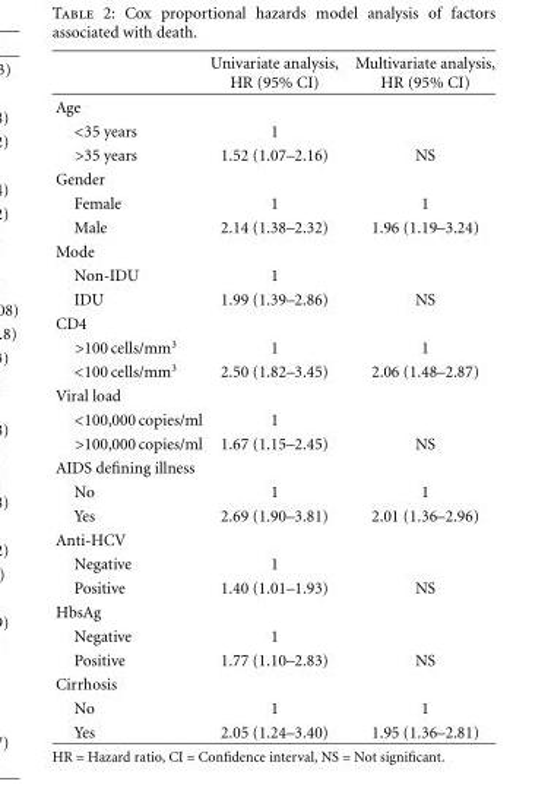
<table><thead><tr><td></td><td>Univariate analysis, HR (95% CI)</td><td>Multivariate analysis, HR (95% CI)</td></tr></thead><tbody><tr><td colspan="3">Age</td></tr><tr><td>&lt;35 years</td><td>1</td><td></td></tr><tr><td>&gt;35 years</td><td>1.52 (1.07–2.16)</td><td>NS</td></tr><tr><td colspan="3">Gender</td></tr><tr><td>Female</td><td>1</td><td>1</td></tr><tr><td>Male</td><td>2.14 (1.38–2.32)</td><td>1.96 (1.19–3.24)</td></tr><tr><td colspan="3">Mode</td></tr><tr><td>Non-IDU</td><td>1</td><td></td></tr><tr><td>IDU</td><td>1.99 (1.39–2.86)</td><td>NS</td></tr><tr><td colspan="3">CD4</td></tr><tr><td>&gt;100 cells/mm<sup>3</sup></td><td>1</td><td>1</td></tr><tr><td>&lt;100 cells/mm<sup>3</sup></td><td>2.50 (1.82–3.45)</td><td>2.06 (1.48–2.87)</td></tr><tr><td colspan="3">Viral load</td></tr><tr><td>&lt;100,000 copies/ml</td><td>1</td><td></td></tr><tr><td>&gt;100,000 copies/ml</td><td>1.67 (1.15–2.45)</td><td>NS</td></tr><tr><td colspan="3">AIDS defining illness</td></tr><tr><td>No</td><td>1</td><td>1</td></tr><tr><td>Yes</td><td>2.69 (1.90–3.81)</td><td>2.01 (1.36–2.96)</td></tr><tr><td colspan="3">Anti-HCV</td></tr><tr><td>Negative</td><td>1</td><td></td></tr><tr><td>Positive</td><td>1.40 (1.01–1.93)</td><td>NS</td></tr><tr><td colspan="3">HbsAg</td></tr><tr><td>Negative</td><td>1</td><td></td></tr><tr><td>Positive</td><td>1.77 (1.10–2.83)</td><td>NS</td></tr><tr><td colspan="3">Cirrhosis</td></tr><tr><td>No</td><td>1</td><td>1</td></tr><tr><td>Yes</td><td>2.05 (1.24–3.40)</td><td>1.95 (1.36–2.81)</td></tr></tbody></table>